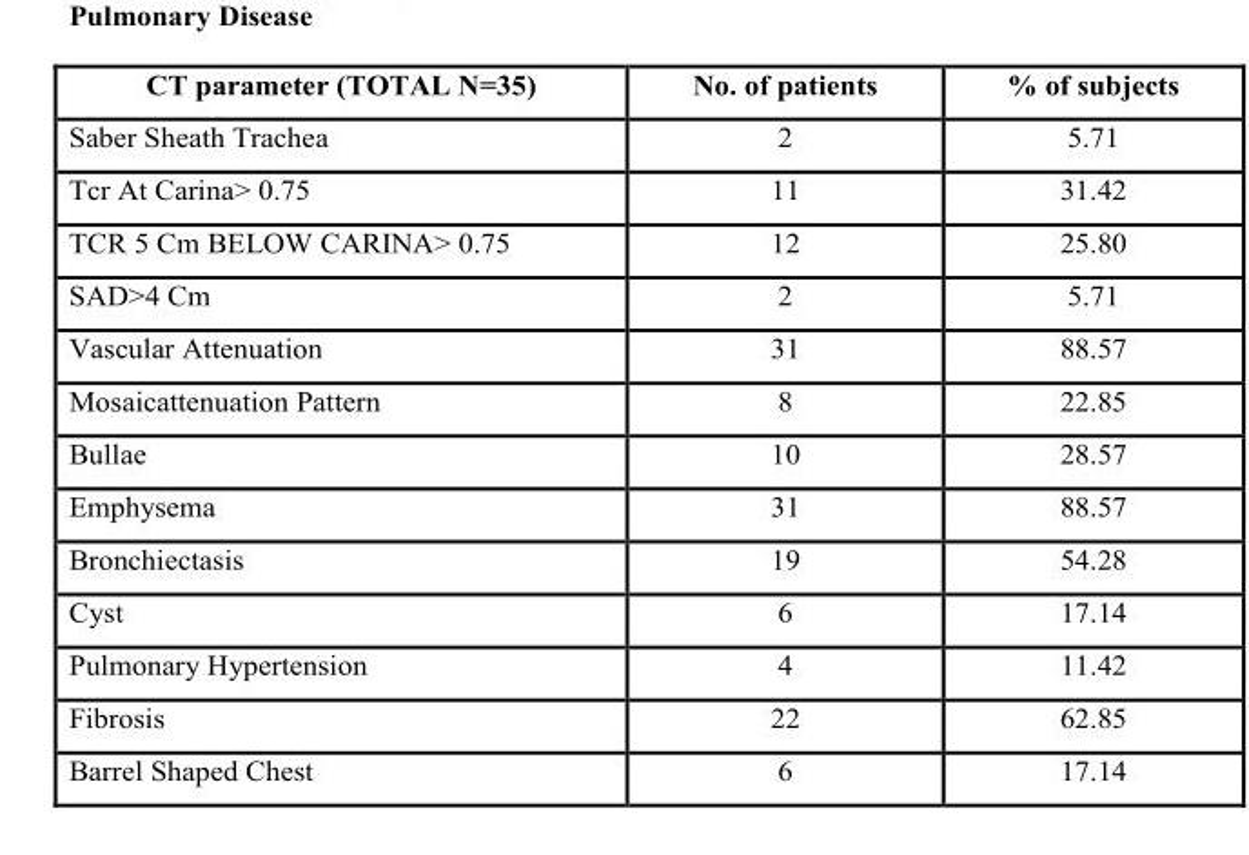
<table><thead><tr><td>CT parameter (TOTAL N=35)</td><td>No. of patients</td><td>% of subjects</td></tr></thead><tbody><tr><td>Saber Sheath Trachea</td><td>2</td><td>5.71</td></tr><tr><td>Tcr At Carina&gt; 0.75</td><td>11</td><td>31.42</td></tr><tr><td>TCR 5 Cm BELOW CARINA&gt; 0.75</td><td>12</td><td>25.80</td></tr><tr><td>SAD&gt;4 Cm</td><td>2</td><td>5.71</td></tr><tr><td>Vascular Attenuation</td><td>31</td><td>88.57</td></tr><tr><td>Mosaicattenuation Pattern</td><td>8</td><td>22.85</td></tr><tr><td>Bullae</td><td>10</td><td>28.57</td></tr><tr><td>Emphysema</td><td>31</td><td>88.57</td></tr><tr><td>Bronchiectasis</td><td>19</td><td>54.28</td></tr><tr><td>Cyst</td><td>6</td><td>17.14</td></tr><tr><td>Pulmonary Hypertension</td><td>4</td><td>11.42</td></tr><tr><td>Fibrosis</td><td>22</td><td>62.85</td></tr><tr><td>Barrel Shaped Chest</td><td>6</td><td>17.14</td></tr></tbody></table>